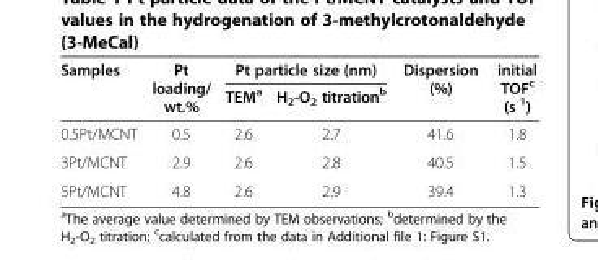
<table><thead><tr><td rowspan="2">Samples</td><td rowspan="2">Pt loading/ wt.%</td><td colspan="2">Pt particle size (nm)</td><td rowspan="2">Dispersion (%)</td><td rowspan="2">initial TOF<sup>c</sup> (s<sup>-1</sup>)</td></tr><tr><td>TEM<sup>a</sup></td><td>H<sub>2</sub>-O<sub>2</sub> titration<sup>b</sup></td></tr></thead><tbody><tr><td>0.5Pt/MCNT</td><td>0.5</td><td>2.6</td><td>2.7</td><td>41.6</td><td>1.8</td></tr><tr><td>3Pt/MCNT</td><td>2.9</td><td>2.6</td><td>2.8</td><td>40.5</td><td>1.5</td></tr><tr><td>5Pt/MCNT</td><td>4.8</td><td>2.6</td><td>2.9</td><td>39.4</td><td>1.3</td></tr></tbody></table>